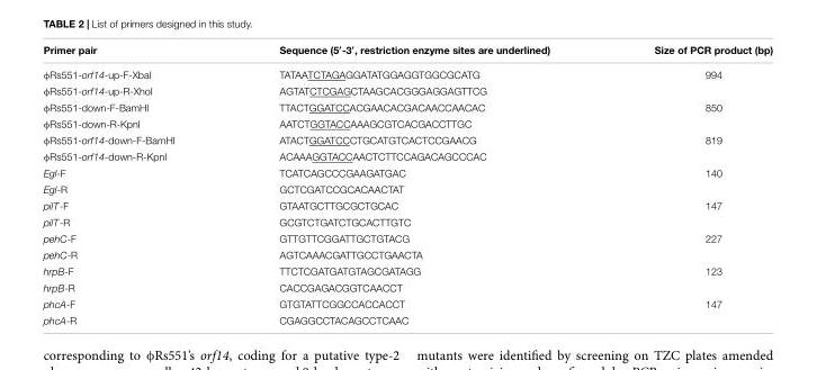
<table><thead><tr><td>Primer pair</td><td>Sequence (5′-3′, restriction enzyme sites are underlined)</td><td>Size of PCR product (bp)</td></tr></thead><tbody><tr><td>φRs551-orf14-up-F-XbaI</td><td>TATAATCTAGAGGATATGGAGGTGGCGCATG</td><td>994</td></tr><tr><td>φRs551-orf14-up-R-XhoI</td><td>AGTATCTCGAGCTAAGCACGGGAGGAGTTCG</td><td></td></tr><tr><td>φRs551-down-F-BamHI</td><td>TTACTGGATCCACGAACACGACAACCAACAC</td><td>850</td></tr><tr><td>φRs551-down-R-KpnI</td><td>AATCTGGTACCAAAGCGTCACGACCTTGC</td><td></td></tr><tr><td>φRs551-orf14-down-F-BamHI</td><td>ATACTGGATCCCTGCATGTCACTCCGAACG</td><td>819</td></tr><tr><td>φRs551-orf14-down-R-KpnI</td><td>ACAAAGGTACCAACTCTTCCAGACAGCCCAC</td><td></td></tr><tr><td>Egl-F</td><td>TCATCAGCCCGAAGATGAC</td><td>140</td></tr><tr><td>Egl-R</td><td>GCTCGATCCGCACAACTAT</td><td></td></tr><tr><td>pilT-F</td><td>GTAATGCTTGCGCTGCAC</td><td>147</td></tr><tr><td>pilT-R</td><td>GCGTCTGATCTGCACTTGTC</td><td></td></tr><tr><td>pehC-F</td><td>GTTGTTCGGATTGCTGTACG</td><td>227</td></tr><tr><td>pehC-R</td><td>AGTCAAACGATTGCCTGAACTA</td><td></td></tr><tr><td>hrpB-F</td><td>TTCTCGATGATGTAGCGATAGG</td><td>123</td></tr><tr><td>hrpB-R</td><td>CACCGAGACGGTCAACCT</td><td></td></tr><tr><td>phcA-F</td><td>GTGTATTCGGCCACCACCT</td><td>147</td></tr><tr><td>phcA-R</td><td>CGAGGCCTACAGCCTCAAC</td><td></td></tr></tbody></table>